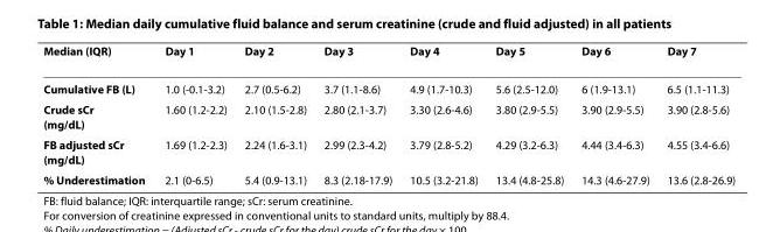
<table><thead><tr><td>Median (IQR)</td><td>Day 1</td><td>Day 2</td><td>Day 3</td><td>Day 4</td><td>Day 5</td><td>Day 6</td><td>Day 7</td></tr></thead><tbody><tr><td>Cumulative FB (L)</td><td>1.0 (-0.1-3.2)</td><td>2.7 (0.5-6.2)</td><td>3.7 (1.1-8.6)</td><td>4.9 (1.7-10.3)</td><td>5.6 (2.5-12.0)</td><td>6 (1.9-13.1)</td><td>6.5 (1.1-11.3)</td></tr><tr><td>Crude sCr (mg/dL)</td><td>1.60 (1.2-2.2)</td><td>2.10 (1.5-2.8)</td><td>2.80 (2.1-3.7)</td><td>3.30 (2.6-4.6)</td><td>3.80 (2.9-5.5)</td><td>3.90 (2.9-5.5)</td><td>3.90 (2.8-5.6)</td></tr><tr><td>FB adjusted sCr (mg/dL)</td><td>1.69 (1.2-2.3)</td><td>2.24 (1.6-3.1)</td><td>2.99 (2.3-4.2)</td><td>3.79 (2.8-5.2)</td><td>4.29 (3.2-6.3)</td><td>4.44 (3.4-6.3)</td><td>4.55 (3.4-6.6)</td></tr><tr><td>% Underestimation</td><td>2.1 (0-6.5)</td><td>5.4 (0.9-13.1)</td><td>8.3 (2.18-17.9)</td><td>10.5 (3.2-21.8)</td><td>13.4 (4.8-25.8)</td><td>14.3 (4.6-27.9)</td><td>13.6 (2.8-26.9)</td></tr></tbody></table>